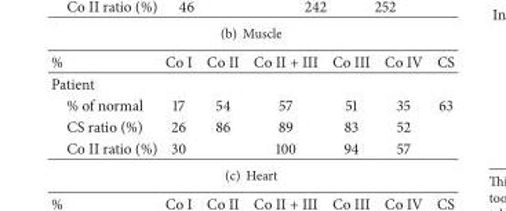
<table><thead><tr><td>%</td><td>Co I</td><td>Co II</td><td>Co II + III</td><td>Co III</td><td>Co IV</td><td>CS</td></tr></thead><tbody><tr><td colspan="7">Patient</td></tr><tr><td>% of normal</td><td>17</td><td>54</td><td>57</td><td>51</td><td>35</td><td>63</td></tr><tr><td>CS ratio (%)</td><td>26</td><td>86</td><td>89</td><td>83</td><td>52</td><td></td></tr><tr><td>Co II ratio (%)</td><td>30</td><td></td><td>100</td><td>94</td><td>57</td><td></td></tr></tbody></table>